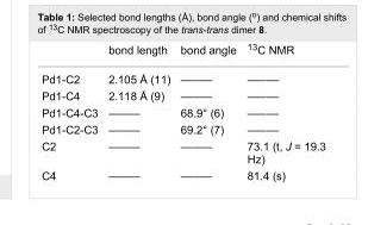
<table><thead><tr><td></td><td>bond length</td><td>bond angle</td><td><sup>13</sup>C NMR</td></tr></thead><tbody><tr><td>Pd1-C2</td><td>2.105 Å (11)</td><td>–––––</td><td>–––––</td></tr><tr><td>Pd1-C4</td><td>2.118 Å (9)</td><td>–––––</td><td>–––––</td></tr><tr><td>Pd1-C4-C3</td><td>–––––</td><td>68.9° (6)</td><td>–––––</td></tr><tr><td>Pd1-C2-C3</td><td>–––––</td><td>69.2° (7)</td><td>–––––</td></tr><tr><td>C2</td><td>–––––</td><td>–––––</td><td>73.1 (t, J = 19.3 Hz)</td></tr><tr><td>C4</td><td>–––––</td><td>–––––</td><td>81.4 (s)</td></tr></tbody></table>